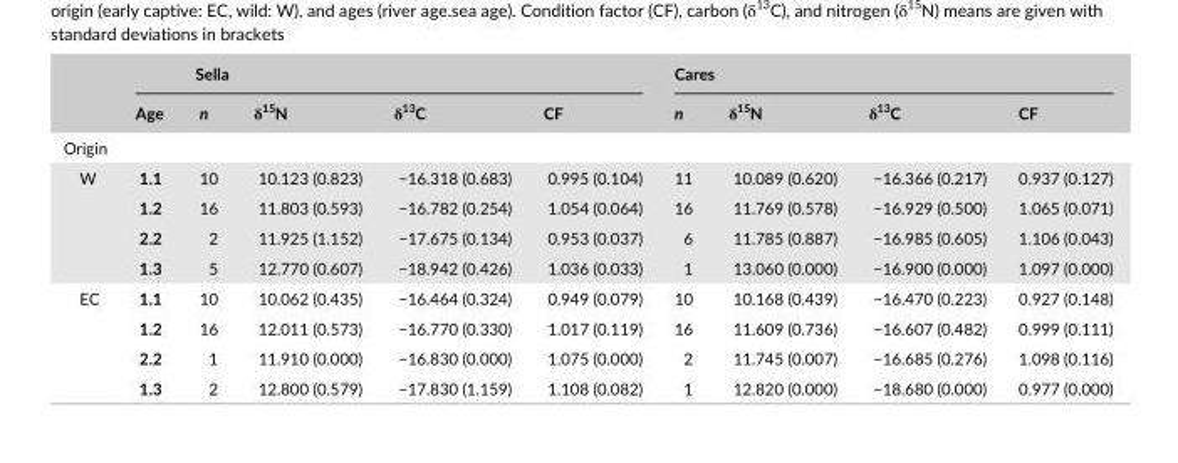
<table><thead><tr><td rowspan="2"></td><td colspan="5">Sella</td><td colspan="4">Cares</td></tr><tr><td>Age</td><td>n</td><td>δ<sup>15</sup>N</td><td>δ<sup>13</sup>C</td><td>CF</td><td>n</td><td>δ<sup>15</sup>N</td><td>δ<sup>13</sup>C</td><td>CF</td></tr></thead><tbody><tr><td colspan="10">Origin</td></tr><tr><td rowspan="4">W</td><td>1.1</td><td>10</td><td>10.123 (0.823)</td><td>−16.318 (0.683)</td><td>0.995 (0.104)</td><td>11</td><td>10.089 (0.620)</td><td>−16.366 (0.217)</td><td>0.937 (0.127)</td></tr><tr><td>1.2</td><td>16</td><td>11.803 (0.593)</td><td>−16.782 (0.254)</td><td>1.054 (0.064)</td><td>16</td><td>11.769 (0.578)</td><td>−16.929 (0.500)</td><td>1.065 (0.071)</td></tr><tr><td>2.2</td><td>2</td><td>11.925 (1.152)</td><td>−17.675 (0.134)</td><td>0.953 (0.037)</td><td>6</td><td>11.785 (0.887)</td><td>−16.985 (0.605)</td><td>1.106 (0.043)</td></tr><tr><td>1.3</td><td>5</td><td>12.770 (0.607)</td><td>−18.942 (0.426)</td><td>1.036 (0.033)</td><td>1</td><td>13.060 (0.000)</td><td>−16.900 (0.000)</td><td>1.097 (0.000)</td></tr><tr><td rowspan="4">EC</td><td>1.1</td><td>10</td><td>10.062 (0.435)</td><td>−16.464 (0.324)</td><td>0.949 (0.079)</td><td>10</td><td>10.168 (0.439)</td><td>−16.470 (0.223)</td><td>0.927 (0.148)</td></tr><tr><td>1.2</td><td>16</td><td>12.011 (0.573)</td><td>−16.770 (0.330)</td><td>1.017 (0.119)</td><td>16</td><td>11.609 (0.736)</td><td>−16.607 (0.482)</td><td>0.999 (0.111)</td></tr><tr><td>2.2</td><td>1</td><td>11.910 (0.000)</td><td>−16.830 (0.000)</td><td>1.075 (0.000)</td><td>2</td><td>11.745 (0.007)</td><td>−16.685 (0.276)</td><td>1.098 (0.116)</td></tr><tr><td>1.3</td><td>2</td><td>12.800 (0.579)</td><td>−17.830 (1.159)</td><td>1.108 (0.082)</td><td>1</td><td>12.820 (0.000)</td><td>−18.680 (0.000)</td><td>0.977 (0.000)</td></tr></tbody></table>